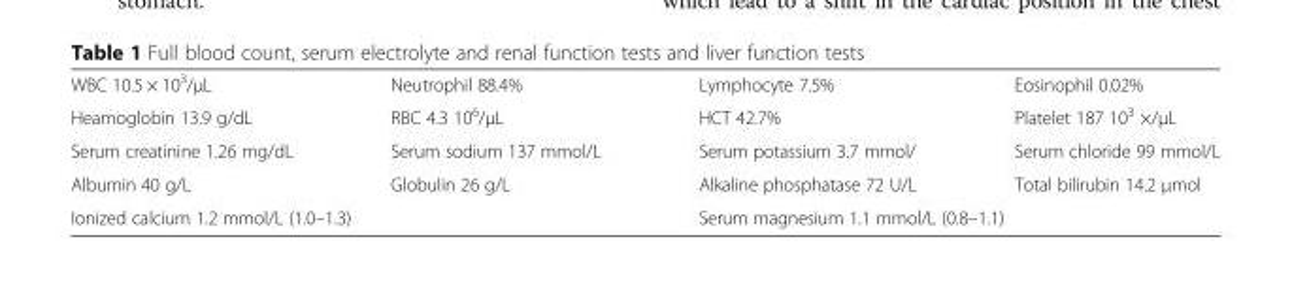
<table><tbody><tr><td>WBC 10.5 × 10<sup>3</sup>/μL</td><td>Neutrophil 88.4%</td><td>Lymphocyte 7.5%</td><td>Eosinophil 0.02%</td></tr><tr><td>Heamoglobin 13.9 g/dL</td><td>RBC 4.3 10<sup>6</sup>/μL</td><td>HCT 42.7%</td><td>Platelet 187 10<sup>3</sup> ×/μL</td></tr><tr><td>Serum creatinine 1.26 mg/dL</td><td>Serum sodium 137 mmol/L</td><td>Serum potassium 3.7 mmol/</td><td>Serum chloride 99 mmol/L</td></tr><tr><td>Albumin 40 g/L</td><td>Globulin 26 g/L</td><td>Alkaline phosphatase 72 U/L</td><td>Total bilirubin 14.2 μmol</td></tr><tr><td colspan="2">Ionized calcium 1.2 mmol/L (1.0–1.3)</td><td colspan="2">Serum magnesium 1.1 mmol/L (0.8–1.1)</td></tr></tbody></table>